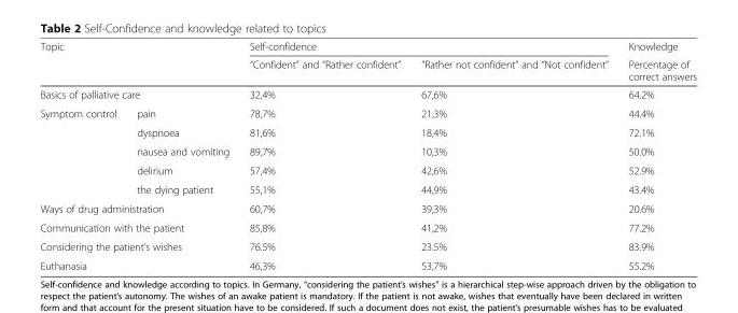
<table><thead><tr><td colspan="2">Topic</td><td colspan="2">Self-confidence</td><td rowspan="2">Knowledge Percentage of correct answers</td></tr><tr><td></td><td></td><td>“Confident” and “Rather confident”</td><td>“Rather not confident” and “Not confident”</td></tr></thead><tbody><tr><td colspan="2">Basics of palliative care</td><td>32,4%</td><td>67,6%</td><td>64.2%</td></tr><tr><td rowspan="5">Symptom control</td><td>pain</td><td>78,7%</td><td>21,3%</td><td>44.4%</td></tr><tr><td>dyspnoea</td><td>81,6%</td><td>18,4%</td><td>72.1%</td></tr><tr><td>nausea and vomiting</td><td>89,7%</td><td>10,3%</td><td>50.0%</td></tr><tr><td>delirium</td><td>57,4%</td><td>42,6%</td><td>52.9%</td></tr><tr><td>the dying patient</td><td>55,1%</td><td>44,9%</td><td>43.4%</td></tr><tr><td colspan="2">Ways of drug administration</td><td>60,7%</td><td>39,3%</td><td>20.6%</td></tr><tr><td colspan="2">Communication with the patient</td><td>85,8%</td><td>41,2%</td><td>77.2%</td></tr><tr><td colspan="2">Considering the patient’s wishes</td><td>76.5%</td><td>23.5%</td><td>83.9%</td></tr><tr><td colspan="2">Euthanasia</td><td>46,3%</td><td>53,7%</td><td>55.2%</td></tr></tbody></table>